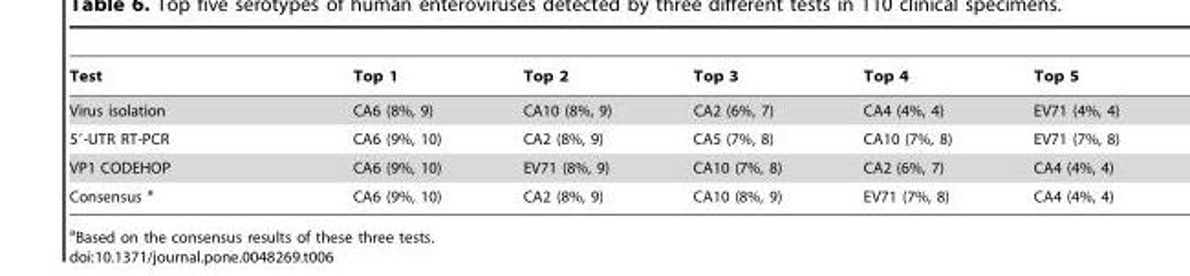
<table><thead><tr><td>Test</td><td>Top 1</td><td>Top 2</td><td>Top 3</td><td>Top 4</td><td>Top 5</td></tr></thead><tbody><tr><td>Virus isolation</td><td>CA6 (8%, 9)</td><td>CA10 (8%, 9)</td><td>CA2 (6%, 7)</td><td>CA4 (4%, 4)</td><td>EV71 (4%, 4)</td></tr><tr><td>5′-UTR RT-PCR</td><td>CA6 (9%, 10)</td><td>CA2 (8%, 9)</td><td>CA5 (7%, 8)</td><td>CA10 (7%, 8)</td><td>EV71 (7%, 8)</td></tr><tr><td>VP1 CODEHOP</td><td>CA6 (9%, 10)</td><td>EV71 (8%, 9)</td><td>CA10 (7%, 8)</td><td>CA2 (6%, 7)</td><td>CA4 (4%, 4)</td></tr><tr><td>Consensus a</td><td>CA6 (9%, 10)</td><td>CA2 (8%, 9)</td><td>CA10 (8%, 9)</td><td>EV71 (7%, 8)</td><td>CA4 (4%, 4)</td></tr></tbody></table>